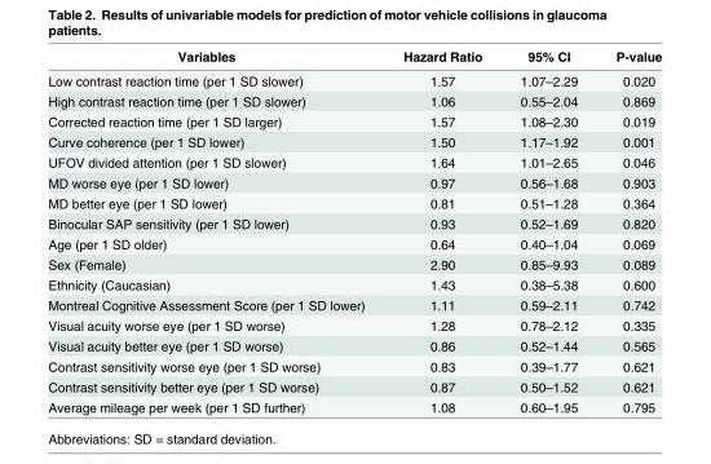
<table><thead><tr><td>Variables</td><td>Hazard Ratio</td><td>95% CI</td><td>P-value</td></tr></thead><tbody><tr><td>Low contrast reaction time (per 1 SD slower)</td><td>1.57</td><td>1.07–2.29</td><td>0.020</td></tr><tr><td>High contrast reaction time (per 1 SD slower)</td><td>1.06</td><td>0.55–2.04</td><td>0.869</td></tr><tr><td>Corrected reaction time (per 1 SD larger)</td><td>1.57</td><td>1.08–2.30</td><td>0.019</td></tr><tr><td>Curve coherence (per 1 SD lower)</td><td>1.50</td><td>1.17–1.92</td><td>0.001</td></tr><tr><td>UFOV divided attention (per 1 SD slower)</td><td>1.64</td><td>1.01–2.65</td><td>0.046</td></tr><tr><td>MD worse eye (per 1 SD lower)</td><td>0.97</td><td>0.56–1.68</td><td>0.903</td></tr><tr><td>MD better eye (per 1 SD lower)</td><td>0.81</td><td>0.51–1.28</td><td>0.364</td></tr><tr><td>Binocular SAP sensitivity (per 1 SD lower)</td><td>0.93</td><td>0.52–1.69</td><td>0.820</td></tr><tr><td>Age (per 1 SD older)</td><td>0.64</td><td>0.40–1.04</td><td>0.069</td></tr><tr><td>Sex (Female)</td><td>2.90</td><td>0.85–9.93</td><td>0.089</td></tr><tr><td>Ethnicity (Caucasian)</td><td>1.43</td><td>0.38–5.38</td><td>0.600</td></tr><tr><td>Montreal Cognitive Assessment Score (per 1 SD lower)</td><td>1.11</td><td>0.59–2.11</td><td>0.742</td></tr><tr><td>Visual acuity worse eye (per 1 SD worse)</td><td>1.28</td><td>0.78–2.12</td><td>0.335</td></tr><tr><td>Visual acuity better eye (per 1 SD worse)</td><td>0.86</td><td>0.52–1.44</td><td>0.565</td></tr><tr><td>Contrast sensitivity worse eye (per 1 SD worse)</td><td>0.83</td><td>0.39–1.77</td><td>0.621</td></tr><tr><td>Contrast sensitivity better eye (per 1 SD worse)</td><td>0.87</td><td>0.50–1.52</td><td>0.621</td></tr><tr><td>Average mileage per week (per 1 SD further)</td><td>1.08</td><td>0.60–1.95</td><td>0.795</td></tr></tbody></table>